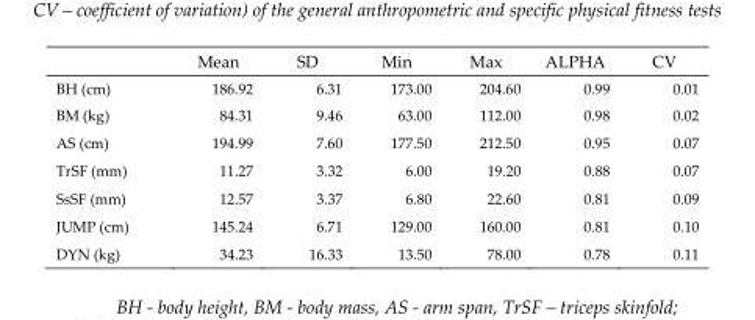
<table><thead><tr><td></td><td>Mean</td><td>SD</td><td>Min</td><td>Max</td><td>ALPHA</td><td>CV</td></tr></thead><tbody><tr><td>BH (cm)</td><td>186.92</td><td>6.31</td><td>173.00</td><td>204.60</td><td>0.99</td><td>0.01</td></tr><tr><td>BM (kg)</td><td>84.31</td><td>9.46</td><td>63.00</td><td>112.00</td><td>0.98</td><td>0.02</td></tr><tr><td>AS (cm)</td><td>194.99</td><td>7.60</td><td>177.50</td><td>212.50</td><td>0.95</td><td>0.07</td></tr><tr><td>TrSF (mm)</td><td>11.27</td><td>3.32</td><td>6.00</td><td>19.20</td><td>0.88</td><td>0.07</td></tr><tr><td>SsSF (mm)</td><td>12.57</td><td>3.37</td><td>6.80</td><td>22.60</td><td>0.81</td><td>0.09</td></tr><tr><td>JUMP (cm)</td><td>145.24</td><td>6.71</td><td>129.00</td><td>160.00</td><td>0.81</td><td>0.10</td></tr><tr><td>DYN (kg)</td><td>34.23</td><td>16.33</td><td>13.50</td><td>78.00</td><td>0.78</td><td>0.11</td></tr></tbody></table>